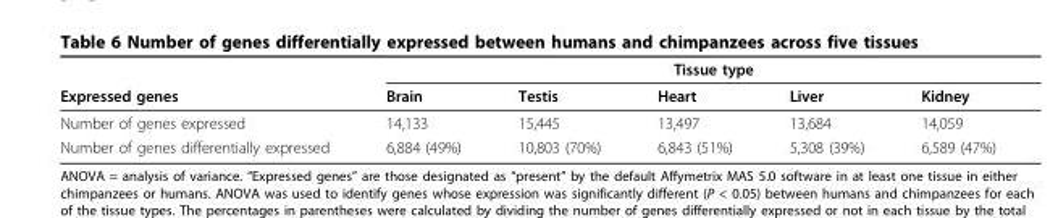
<table><thead><tr><td rowspan="2">Expressed genes</td><td colspan="5">Tissue type</td></tr><tr><td>Brain</td><td>Testis</td><td>Heart</td><td>Liver</td><td>Kidney</td></tr></thead><tbody><tr><td>Number of genes expressed</td><td>14,133</td><td>15,445</td><td>13,497</td><td>13,684</td><td>14,059</td></tr><tr><td>Number of genes differentially expressed</td><td>6,884 (49%)</td><td>10,803 (70%)</td><td>6,843 (51%)</td><td>5,308 (39%)</td><td>6,589 (47%)</td></tr></tbody></table>